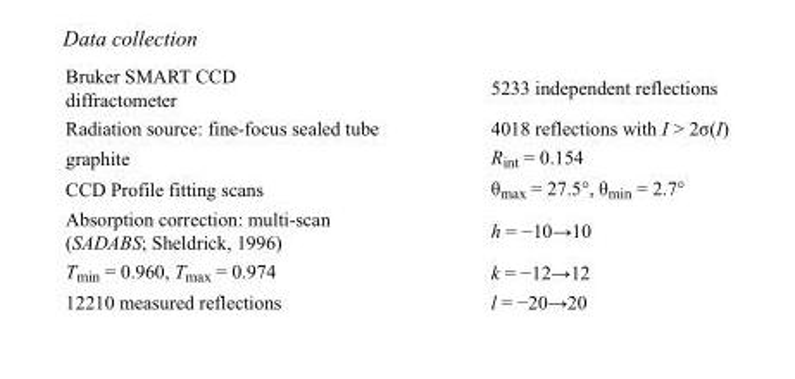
<table><tbody><tr><td>Bruker SMART CCD diffractometer</td><td>5233 independent reflections</td></tr><tr><td>Radiation source: fine-focus sealed tube</td><td>4018 reflections with I &gt; 2σ(I)</td></tr><tr><td>graphite</td><td>R<sub>int</sub> = 0.154</td></tr><tr><td>CCD Profile fitting scans</td><td>θ<sub>max</sub> = 27.5°, θ<sub>min</sub> = 2.7°</td></tr><tr><td>Absorption correction: multi-scan (SADABS; Sheldrick, 1996)</td><td>h = −10→10</td></tr><tr><td>T<sub>min</sub> = 0.960, T<sub>max</sub> = 0.974</td><td>k = −12→12</td></tr><tr><td>12210 measured reflections</td><td>l = −20→20</td></tr></tbody></table>